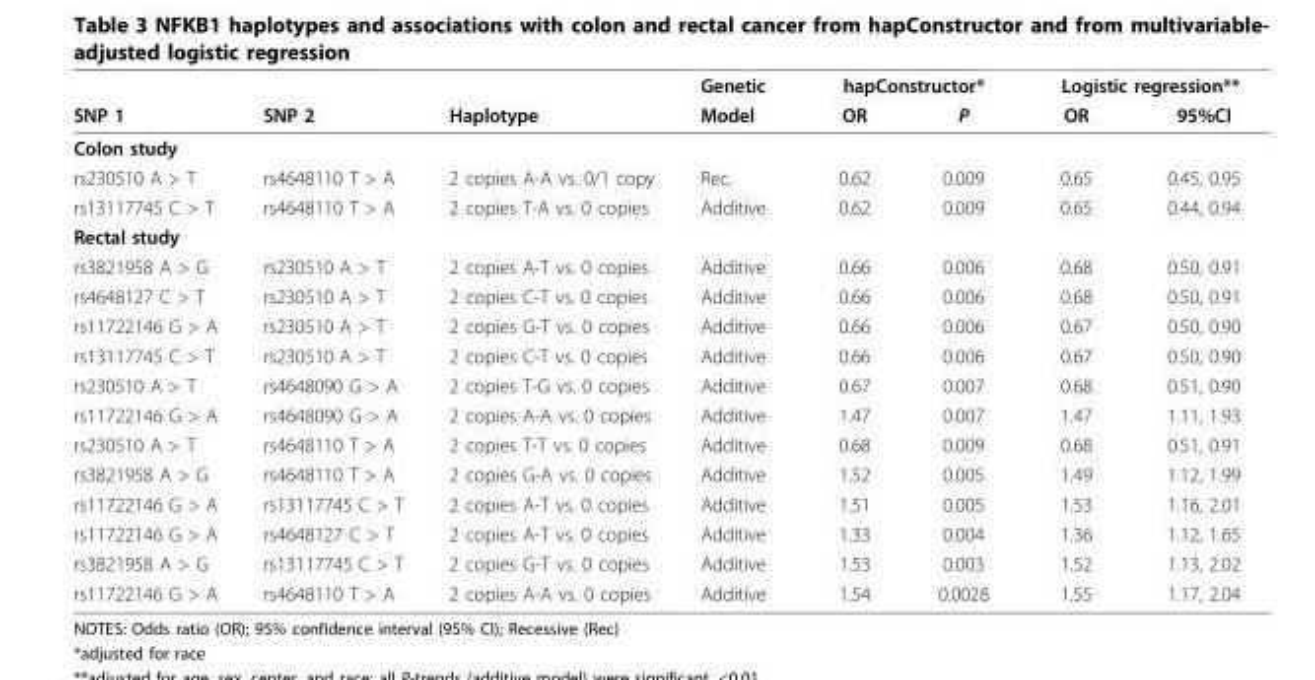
<table><thead><tr><td rowspan="2">SNP 1</td><td rowspan="2">SNP 2</td><td rowspan="2">Haplotype</td><td rowspan="2">Genetic Model</td><td colspan="2">hapConstructor*</td><td colspan="2">Logistic regression**</td></tr><tr><td>OR</td><td>P</td><td>OR</td><td>95%CI</td></tr></thead><tbody><tr><td colspan="8">Colon study</td></tr><tr><td>rs230510 A &gt; T</td><td>rs4648110 T &gt; A</td><td>2 copies A-A vs. 0/1 copy</td><td>Rec.</td><td>0.62</td><td>0.009</td><td>0.65</td><td>0.45, 0.95</td></tr><tr><td>rs13117745 C &gt; T</td><td>rs4648110 T &gt; A</td><td>2 copies T-A vs. 0 copies</td><td>Additive</td><td>0.62</td><td>0.009</td><td>0.65</td><td>0.44, 0.94</td></tr><tr><td colspan="8">Rectal study</td></tr><tr><td>rs3821958 A &gt; G</td><td>rs230510 A &gt; T</td><td>2 copies A-T vs. 0 copies</td><td>Additive</td><td>0.66</td><td>0.006</td><td>0.68</td><td>0.50, 0.91</td></tr><tr><td>rs4648127 C &gt; T</td><td>rs230510 A &gt; T</td><td>2 copies C-T vs. 0 copies</td><td>Additive</td><td>0.66</td><td>0.006</td><td>0.68</td><td>0.50, 0.91</td></tr><tr><td>rs11722146 G &gt; A</td><td>rs230510 A &gt; T</td><td>2 copies G-T vs. 0 copies</td><td>Additive</td><td>0.66</td><td>0.006</td><td>0.67</td><td>0.50, 0.90</td></tr><tr><td>rs13117745 C &gt; T</td><td>rs230510 A &gt; T</td><td>2 copies C-T vs. 0 copies</td><td>Additive</td><td>0.66</td><td>0.006</td><td>0.67</td><td>0.50, 0.90</td></tr><tr><td>rs230510 A &gt; T</td><td>rs4648090 G &gt; A</td><td>2 copies T-G vs. 0 copies</td><td>Additive</td><td>0.67</td><td>0.007</td><td>0.68</td><td>0.51, 0.90</td></tr><tr><td>rs11722146 G &gt; A</td><td>rs4648090 G &gt; A</td><td>2 copies A-A vs. 0 copies</td><td>Additive</td><td>1.47</td><td>0.007</td><td>1.47</td><td>1.11, 1.93</td></tr><tr><td>rs230510 A &gt; T</td><td>rs4648110 T &gt; A</td><td>2 copies T-T vs. 0 copies</td><td>Additive</td><td>0.68</td><td>0.009</td><td>0.68</td><td>0.51, 0.91</td></tr><tr><td>rs3821958 A &gt; G</td><td>rs4648110 T &gt; A</td><td>2 copies G-A vs. 0 copies</td><td>Additive</td><td>1.52</td><td>0.005</td><td>1.49</td><td>1.12, 1.99</td></tr><tr><td>rs11722146 G &gt; A</td><td>rs13117745 C &gt; T</td><td>2 copies A-T vs. 0 copies</td><td>Additive</td><td>1.51</td><td>0.005</td><td>1.53</td><td>1.16, 2.01</td></tr><tr><td>rs11722146 G &gt; A</td><td>rs4648127 C &gt; T</td><td>2 copies A-T vs. 0 copies</td><td>Additive</td><td>1.33</td><td>0.004</td><td>1.36</td><td>1.12, 1.65</td></tr><tr><td>rs3821958 A &gt; G</td><td>rs13117745 C &gt; T</td><td>2 copies G-T vs. 0 copies</td><td>Additive</td><td>1.53</td><td>0.003</td><td>1.52</td><td>1.13, 2.02</td></tr><tr><td>rs11722146 G &gt; A</td><td>rs4648110 T &gt; A</td><td>2 copies A-A vs. 0 copies</td><td>Additive</td><td>1.54</td><td>0.0028</td><td>1.55</td><td>1.17, 2.04</td></tr></tbody></table>